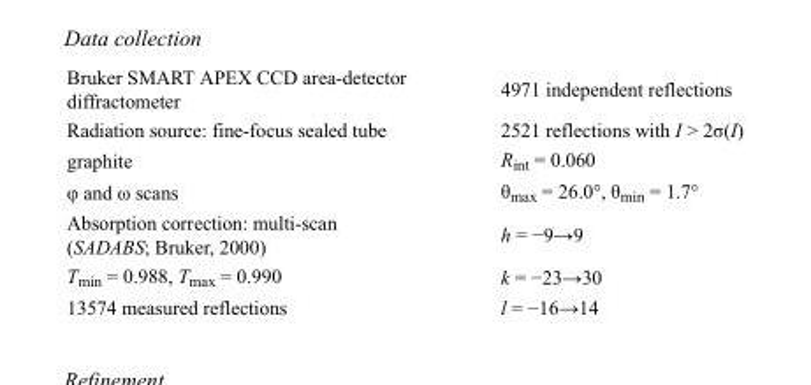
<table><tbody><tr><td>Bruker SMART APEX CCD area-detector diffractometer</td><td>4971 independent reflections</td></tr><tr><td>Radiation source: fine-focus sealed tube</td><td>2521 reflections with I &gt; 2σ(I)</td></tr><tr><td>graphite</td><td>R<sub>int</sub> = 0.060</td></tr><tr><td>φ and ω scans</td><td>θ<sub>max</sub> = 26.0°, θ<sub>min</sub> = 1.7°</td></tr><tr><td>Absorption correction: multi-scan (SADABS; Bruker, 2000)</td><td>h = −9→9</td></tr><tr><td>T<sub>min</sub> = 0.988, T<sub>max</sub> = 0.990</td><td>k = −23→30</td></tr><tr><td>13574 measured reflections</td><td>l = −16→14</td></tr></tbody></table>